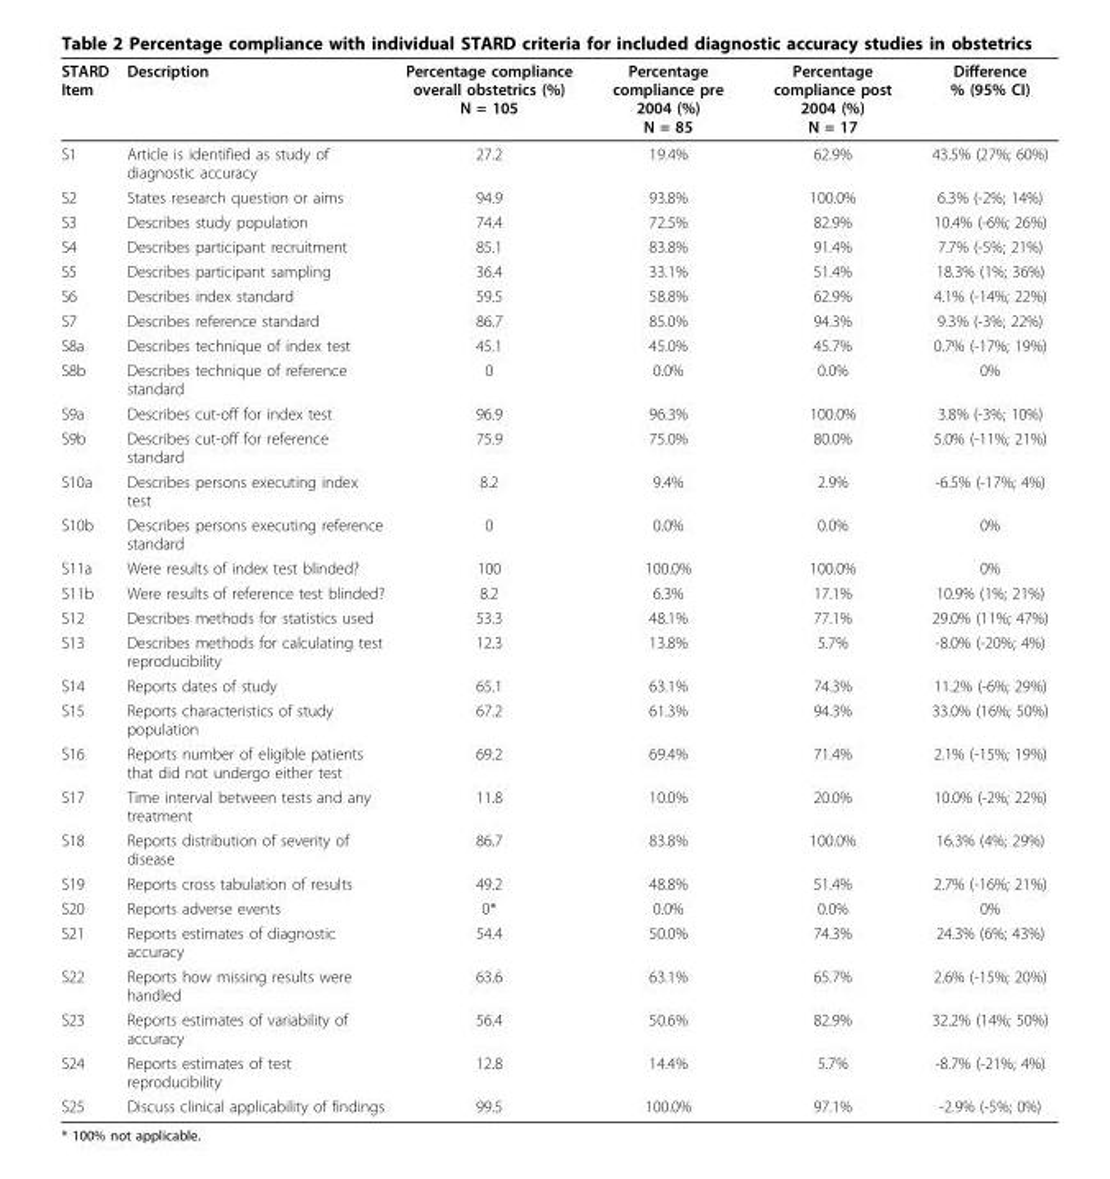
<table><thead><tr><td>STARD Item</td><td>Description</td><td>Percentage compliance overall obstetrics (%) N = 105</td><td>Percentage compliance pre 2004 (%) N = 85</td><td>Percentage compliance post 2004 (%) N = 17</td><td>Difference % (95% CI)</td></tr></thead><tbody><tr><td>S1</td><td>Article is identified as study of diagnostic accuracy</td><td>27.2</td><td>19.4%</td><td>62.9%</td><td>43.5% (27%; 60%)</td></tr><tr><td>S2</td><td>States research question or aims</td><td>94.9</td><td>93.8%</td><td>100.0%</td><td>6.3% (-2%; 14%)</td></tr><tr><td>S3</td><td>Describes study population</td><td>74.4</td><td>72.5%</td><td>82.9%</td><td>10.4% (-6%; 26%)</td></tr><tr><td>S4</td><td>Describes participant recruitment</td><td>85.1</td><td>83.8%</td><td>91.4%</td><td>7.7% (-5%; 21%)</td></tr><tr><td>S5</td><td>Describes participant sampling</td><td>36.4</td><td>33.1%</td><td>51.4%</td><td>18.3% (1%; 36%)</td></tr><tr><td>S6</td><td>Describes index standard</td><td>59.5</td><td>58.8%</td><td>62.9%</td><td>4.1% (-14%; 22%)</td></tr><tr><td>S7</td><td>Describes reference standard</td><td>86.7</td><td>85.0%</td><td>94.3%</td><td>9.3% (-3%; 22%)</td></tr><tr><td>S8a</td><td>Describes technique of index test</td><td>45.1</td><td>45.0%</td><td>45.7%</td><td>0.7% (-17%; 19%)</td></tr><tr><td>S8b</td><td>Describes technique of reference standard</td><td>0</td><td>0.0%</td><td>0.0%</td><td>0%</td></tr><tr><td>S9a</td><td>Describes cut-off for index test</td><td>96.9</td><td>96.3%</td><td>100.0%</td><td>3.8% (-3%; 10%)</td></tr><tr><td>S9b</td><td>Describes cut-off for reference standard</td><td>75.9</td><td>75.0%</td><td>80.0%</td><td>5.0% (-11%; 21%)</td></tr><tr><td>S10a</td><td>Describes persons executing index test</td><td>8.2</td><td>9.4%</td><td>2.9%</td><td>-6.5% (-17%; 4%)</td></tr><tr><td>S10b</td><td>Describes persons executing reference standard</td><td>0</td><td>0.0%</td><td>0.0%</td><td>0%</td></tr><tr><td>S11a</td><td>Were results of index test blinded?</td><td>100</td><td>100.0%</td><td>100.0%</td><td>0%</td></tr><tr><td>S11b</td><td>Were results of reference test blinded?</td><td>8.2</td><td>6.3%</td><td>17.1%</td><td>10.9% (1%; 21%)</td></tr><tr><td>S12</td><td>Describes methods for statistics used</td><td>53.3</td><td>48.1%</td><td>77.1%</td><td>29.0% (11%; 47%)</td></tr><tr><td>S13</td><td>Describes methods for calculating test reproducibility</td><td>12.3</td><td>13.8%</td><td>5.7%</td><td>-8.0% (-20%; 4%)</td></tr><tr><td>S14</td><td>Reports dates of study</td><td>65.1</td><td>63.1%</td><td>74.3%</td><td>11.2% (-6%; 29%)</td></tr><tr><td>S15</td><td>Reports characteristics of study population</td><td>67.2</td><td>61.3%</td><td>94.3%</td><td>33.0% (16%; 50%)</td></tr><tr><td>S16</td><td>Reports number of eligible patients that did not undergo either test</td><td>69.2</td><td>69.4%</td><td>71.4%</td><td>2.1% (-15%; 19%)</td></tr><tr><td>S17</td><td>Time interval between tests and any treatment</td><td>11.8</td><td>10.0%</td><td>20.0%</td><td>10.0% (-2%; 22%)</td></tr><tr><td>S18</td><td>Reports distribution of severity of disease</td><td>86.7</td><td>83.8%</td><td>100.0%</td><td>16.3% (4%; 29%)</td></tr><tr><td>S19</td><td>Reports cross tabulation of results</td><td>49.2</td><td>48.8%</td><td>51.4%</td><td>2.7% (-16%; 21%)</td></tr><tr><td>S20</td><td>Reports adverse events</td><td>0*</td><td>0.0%</td><td>0.0%</td><td>0%</td></tr><tr><td>S21</td><td>Reports estimates of diagnostic accuracy</td><td>54.4</td><td>50.0%</td><td>74.3%</td><td>24.3% (6%; 43%)</td></tr><tr><td>S22</td><td>Reports how missing results were handled</td><td>63.6</td><td>63.1%</td><td>65.7%</td><td>2.6% (-15%; 20%)</td></tr><tr><td>S23</td><td>Reports estimates of variability of accuracy</td><td>56.4</td><td>50.6%</td><td>82.9%</td><td>32.2% (14%; 50%)</td></tr><tr><td>S24</td><td>Reports estimates of test reproducibility</td><td>12.8</td><td>14.4%</td><td>5.7%</td><td>-8.7% (-21%; 4%)</td></tr><tr><td>S25</td><td>Discuss clinical applicability of findings</td><td>99.5</td><td>100.0%</td><td>97.1%</td><td>-2.9% (-5%; 0%)</td></tr></tbody></table>